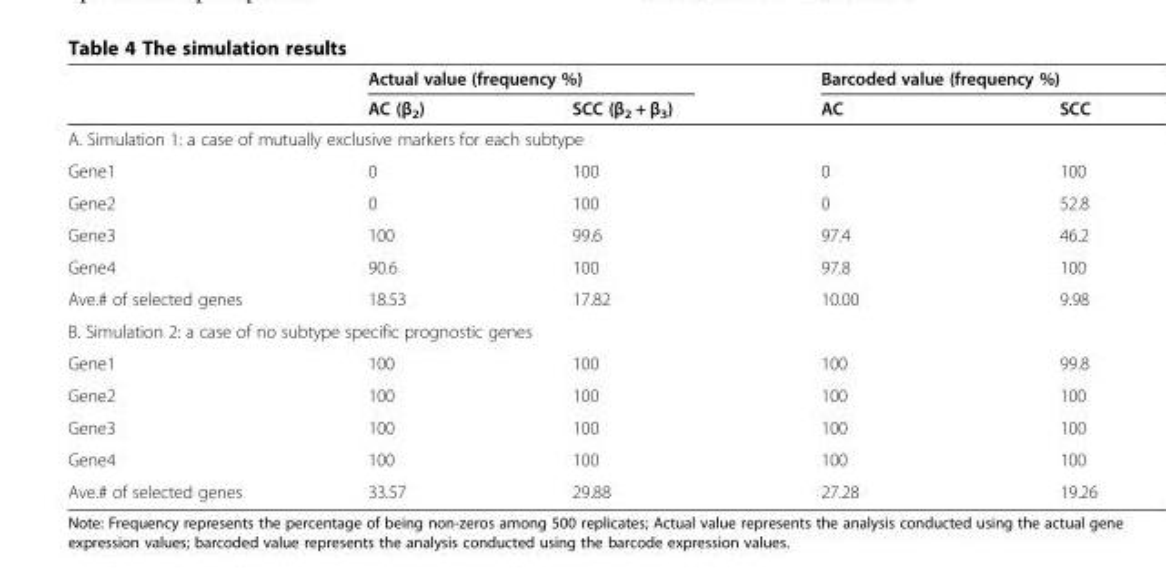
<table><thead><tr><td rowspan="2"></td><td colspan="2">Actual value (frequency %)</td><td colspan="2">Barcoded value (frequency %)</td></tr><tr><td>AC (β<sub>2</sub>)</td><td>SCC (β<sub>2</sub> + β<sub>3</sub>)</td><td>AC</td><td>SCC</td></tr></thead><tbody><tr><td colspan="5">A. Simulation 1: a case of mutually exclusive markers for each subtype</td></tr><tr><td>Gene1</td><td>0</td><td>100</td><td>0</td><td>100</td></tr><tr><td>Gene2</td><td>0</td><td>100</td><td>0</td><td>52.8</td></tr><tr><td>Gene3</td><td>100</td><td>99.6</td><td>97.4</td><td>46.2</td></tr><tr><td>Gene4</td><td>90.6</td><td>100</td><td>97.8</td><td>100</td></tr><tr><td>Ave.# of selected genes</td><td>18.53</td><td>17.82</td><td>10.00</td><td>9.98</td></tr><tr><td colspan="5">B. Simulation 2: a case of no subtype specific prognostic genes</td></tr><tr><td>Gene1</td><td>100</td><td>100</td><td>100</td><td>99.8</td></tr><tr><td>Gene2</td><td>100</td><td>100</td><td>100</td><td>100</td></tr><tr><td>Gene3</td><td>100</td><td>100</td><td>100</td><td>100</td></tr><tr><td>Gene4</td><td>100</td><td>100</td><td>100</td><td>100</td></tr><tr><td>Ave.# of selected genes</td><td>33.57</td><td>29.88</td><td>27.28</td><td>19.26</td></tr></tbody></table>